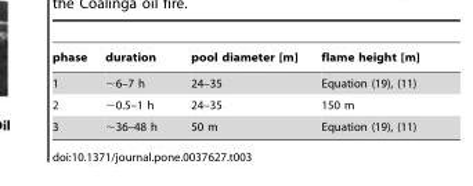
<table><thead><tr><td>phase</td><td>duration</td><td>pool diameter [m]</td><td>flame height [m]</td></tr></thead><tbody><tr><td>1</td><td>∼6–7 h</td><td>24–35</td><td>Equation (19), (11)</td></tr><tr><td>2</td><td>∼0.5–1 h</td><td>24–35</td><td>150 m</td></tr><tr><td>3</td><td>∼36–48 h</td><td>50 m</td><td>Equation (19), (11)</td></tr></tbody></table>